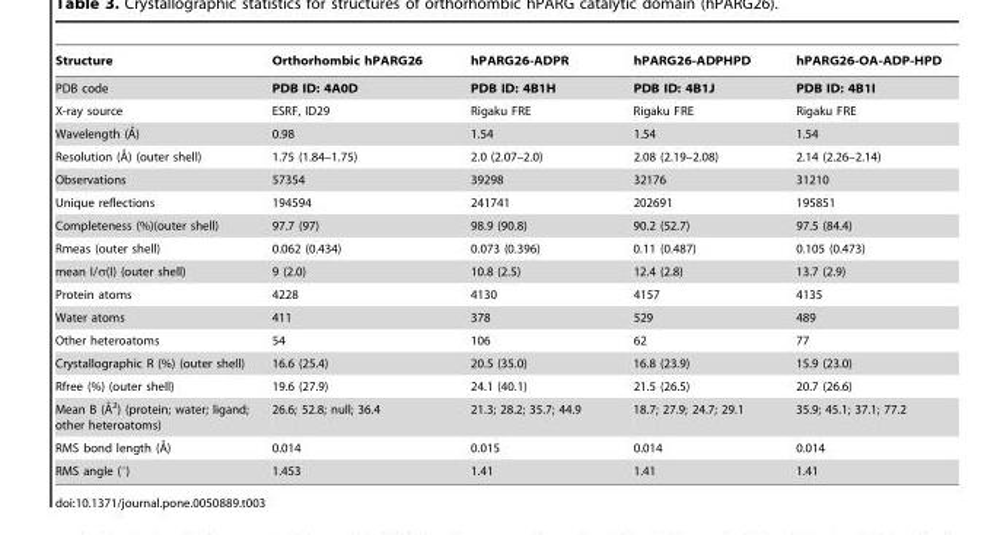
<table><thead><tr><td>Structure</td><td>Orthorhombic hPARG26</td><td>hPARG26-ADPR</td><td>hPARG26-ADPHPD</td><td>hPARG26-OA-ADP-HPD</td></tr></thead><tbody><tr><td>PDB code</td><td>PDB ID: 4A0D</td><td>PDB ID: 4B1H</td><td>PDB ID: 4B1J</td><td>PDB ID: 4B1I</td></tr><tr><td>X-ray source</td><td>ESRF, ID29</td><td>Rigaku FRE</td><td>Rigaku FRE</td><td>Rigaku FRE</td></tr><tr><td>Wavelength (A˚)</td><td>0.98</td><td>1.54</td><td>1.54</td><td>1.54</td></tr><tr><td>Resolution (A˚) (outer shell)</td><td>1.75 (1.84–1.75)</td><td>2.0 (2.07–2.0)</td><td>2.08 (2.19–2.08)</td><td>2.14 (2.26–2.14)</td></tr><tr><td>Observations</td><td>57354</td><td>39298</td><td>32176</td><td>31210</td></tr><tr><td>Unique reflections</td><td>194594</td><td>241741</td><td>202691</td><td>195851</td></tr><tr><td>Completeness (%)(outer shell)</td><td>97.7 (97)</td><td>98.9 (90.8)</td><td>90.2 (52.7)</td><td>97.5 (84.4)</td></tr><tr><td>Rmeas (outer shell)</td><td>0.062 (0.434)</td><td>0.073 (0.396)</td><td>0.11 (0.487)</td><td>0.105 (0.473)</td></tr><tr><td>mean I/σ(I) (outer shell)</td><td>9 (2.0)</td><td>10.8 (2.5)</td><td>12.4 (2.8)</td><td>13.7 (2.9)</td></tr><tr><td>Protein atoms</td><td>4228</td><td>4130</td><td>4157</td><td>4135</td></tr><tr><td>Water atoms</td><td>411</td><td>378</td><td>529</td><td>489</td></tr><tr><td>Other heteroatoms</td><td>54</td><td>106</td><td>62</td><td>77</td></tr><tr><td>Crystallographic R (%) (outer shell)</td><td>16.6 (25.4)</td><td>20.5 (35.0)</td><td>16.8 (23.9)</td><td>15.9 (23.0)</td></tr><tr><td>Rfree (%) (outer shell)</td><td>19.6 (27.9)</td><td>24.1 (40.1)</td><td>21.5 (26.5)</td><td>20.7 (26.6)</td></tr><tr><td>Mean B (A˚2) (protein; water; ligand; other heteroatoms)</td><td>26.6; 52.8; null; 36.4</td><td>21.3; 28.2; 35.7; 44.9</td><td>18.7; 27.9; 24.7; 29.1</td><td>35.9; 45.1; 37.1; 77.2</td></tr><tr><td>RMS bond length (A˚)</td><td>0.014</td><td>0.015</td><td>0.014</td><td>0.014</td></tr><tr><td>RMS angle (°)</td><td>1.453</td><td>1.41</td><td>1.41</td><td>1.41</td></tr></tbody></table>